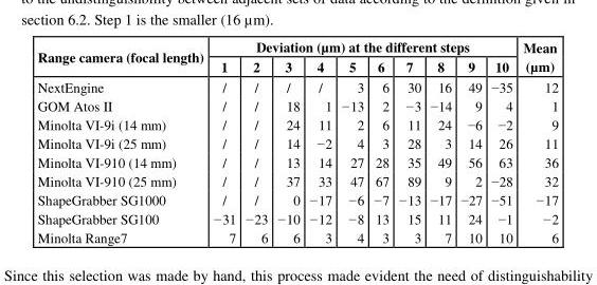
<table><thead><tr><td rowspan="2">Range camera (focal length)</td><td colspan="10">Deviation (µm) at the different steps</td><td rowspan="2">Mean (µm)</td></tr><tr><td>1</td><td>2</td><td>3</td><td>4</td><td>5</td><td>6</td><td>7</td><td>8</td><td>9</td><td>10</td></tr></thead><tbody><tr><td>NextEngine</td><td>/</td><td>/</td><td>/</td><td>/</td><td>3</td><td>6</td><td>30</td><td>16</td><td>49</td><td>−35</td><td>12</td></tr><tr><td>GOM Atos II</td><td>/</td><td>/</td><td>18</td><td>1</td><td>−13</td><td>2</td><td>−3</td><td>−14</td><td>9</td><td>4</td><td>1</td></tr><tr><td>Minolta VI-9i (14 mm)</td><td>/</td><td>/</td><td>24</td><td>11</td><td>2</td><td>6</td><td>11</td><td>24</td><td>−6</td><td>−2</td><td>9</td></tr><tr><td>Minolta VI-9i (25 mm)</td><td>/</td><td>/</td><td>14</td><td>−2</td><td>4</td><td>3</td><td>28</td><td>3</td><td>14</td><td>26</td><td>11</td></tr><tr><td>Minolta VI-910 (14 mm)</td><td>/</td><td>/</td><td>13</td><td>14</td><td>27</td><td>28</td><td>35</td><td>49</td><td>56</td><td>63</td><td>36</td></tr><tr><td>Minolta VI-910 (25 mm)</td><td>/</td><td>/</td><td>37</td><td>33</td><td>47</td><td>67</td><td>89</td><td>9</td><td>2</td><td>−28</td><td>32</td></tr><tr><td>ShapeGrabber SG1000</td><td>/</td><td>/</td><td>0</td><td>−17</td><td>−6</td><td>−7</td><td>−13</td><td>−17</td><td>−27</td><td>−51</td><td>−17</td></tr><tr><td>ShapeGrabber SG100</td><td>−31</td><td>−23</td><td>−10</td><td>−12</td><td>−8</td><td>13</td><td>15</td><td>11</td><td>24</td><td>−1</td><td>−2</td></tr><tr><td>Minolta Range7</td><td>7</td><td>6</td><td>6</td><td>3</td><td>4</td><td>3</td><td>3</td><td>7</td><td>10</td><td>10</td><td>6</td></tr></tbody></table>